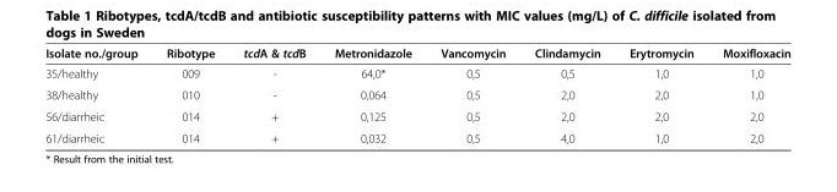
<table><thead><tr><td>Isolate no./group</td><td>Ribotype</td><td>tcdA &amp; tcdB</td><td>Metronidazole</td><td>Vancomycin</td><td>Clindamycin</td><td>Erytromycin</td><td>Moxifloxacin</td></tr></thead><tbody><tr><td>35/healthy</td><td>009</td><td>-</td><td>64,0*</td><td>0,5</td><td>0,5</td><td>1,0</td><td>1,0</td></tr><tr><td>38/healthy</td><td>010</td><td>-</td><td>0,064</td><td>0,5</td><td>2,0</td><td>2,0</td><td>1,0</td></tr><tr><td>56/diarrheic</td><td>014</td><td>+</td><td>0,125</td><td>0,5</td><td>2,0</td><td>2,0</td><td>2,0</td></tr><tr><td>61/diarrheic</td><td>014</td><td>+</td><td>0,032</td><td>0,5</td><td>4,0</td><td>1,0</td><td>2,0</td></tr></tbody></table>